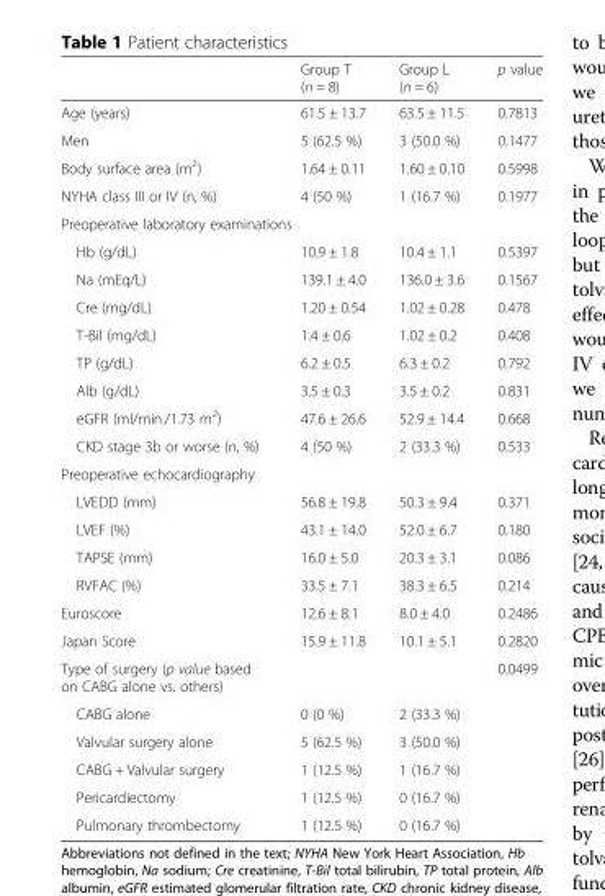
<table><thead><tr><td></td><td>Group T (n = 8)</td><td>Group L (n = 6)</td><td>p value</td></tr></thead><tbody><tr><td>Age (years)</td><td>61.5 ± 13.7</td><td>63.5 ± 11.5</td><td>0.7813</td></tr><tr><td>Men</td><td>5 (62.5 %)</td><td>3 (50.0 %)</td><td>0.1477</td></tr><tr><td>Body surface area (m<sup>2</sup>)</td><td>1.64 ± 0.11</td><td>1.60 ± 0.10</td><td>0.5998</td></tr><tr><td>NYHA class III or IV (n, %)</td><td>4 (50 %)</td><td>1 (16.7 %)</td><td>0.1977</td></tr><tr><td colspan="4">Preoperative laboratory examinations</td></tr><tr><td>Hb (g/dL)</td><td>10.9 ± 1.8</td><td>10.4 ± 1.1</td><td>0.5397</td></tr><tr><td>Na (mEq/L)</td><td>139.1 ± 4.0</td><td>136.0 ± 3.6</td><td>0.1567</td></tr><tr><td>Cre (mg/dL)</td><td>1.20 ± 0.54</td><td>1.02 ± 0.28</td><td>0.478</td></tr><tr><td>T-Bil (mg/dL)</td><td>1.4 ± 0.6</td><td>1.02 ± 0.2</td><td>0.408</td></tr><tr><td>TP (g/dL)</td><td>6.2 ± 0.5</td><td>6.3 ± 0.2</td><td>0.792</td></tr><tr><td>Alb (g/dL)</td><td>3.5 ± 0.3</td><td>3.5 ± 0.2</td><td>0.831</td></tr><tr><td>eGFR (ml/min./1.73 m<sup>2</sup>)</td><td>47.6 ± 26.6</td><td>52.9 ± 14.4</td><td>0.668</td></tr><tr><td>CKD stage 3b or worse (n, %)</td><td>4 (50 %)</td><td>2 (33.3 %)</td><td>0.533</td></tr><tr><td colspan="4">Preoperative echocardiography</td></tr><tr><td>LVEDD (mm)</td><td>56.8 ± 19.8</td><td>50.3 ± 9.4</td><td>0.371</td></tr><tr><td>LVEF (%)</td><td>43.1 ± 14.0</td><td>52.0 ± 6.7</td><td>0.180</td></tr><tr><td>TAPSE (mm)</td><td>16.0 ± 5.0</td><td>20.3 ± 3.1</td><td>0.086</td></tr><tr><td>RVFAC (%)</td><td>33.5 ± 7.1</td><td>38.3 ± 6.5</td><td>0.214</td></tr><tr><td>Euroscore</td><td>12.6 ± 8.1</td><td>8.0 ± 4.0</td><td>0.2486</td></tr><tr><td>Japan Score</td><td>15.9 ± 11.8</td><td>10.1 ± 5.1</td><td>0.2820</td></tr><tr><td>Type of surgery (p value based on CABG alone vs. others)</td><td></td><td></td><td>0.0499</td></tr><tr><td>CABG alone</td><td>0 (0 %)</td><td>2 (33.3 %)</td><td></td></tr><tr><td>Valvular surgery alone</td><td>5 (62.5 %)</td><td>3 (50.0 %)</td><td></td></tr><tr><td>CABG + Valvular surgery</td><td>1 (12.5 %)</td><td>1 (16.7 %)</td><td></td></tr><tr><td>Pericardiectomy</td><td>1 (12.5 %)</td><td>0 (16.7 %)</td><td></td></tr><tr><td>Pulmonary thrombectomy</td><td>1 (12.5 %)</td><td>0 (16.7 %)</td><td></td></tr></tbody></table>